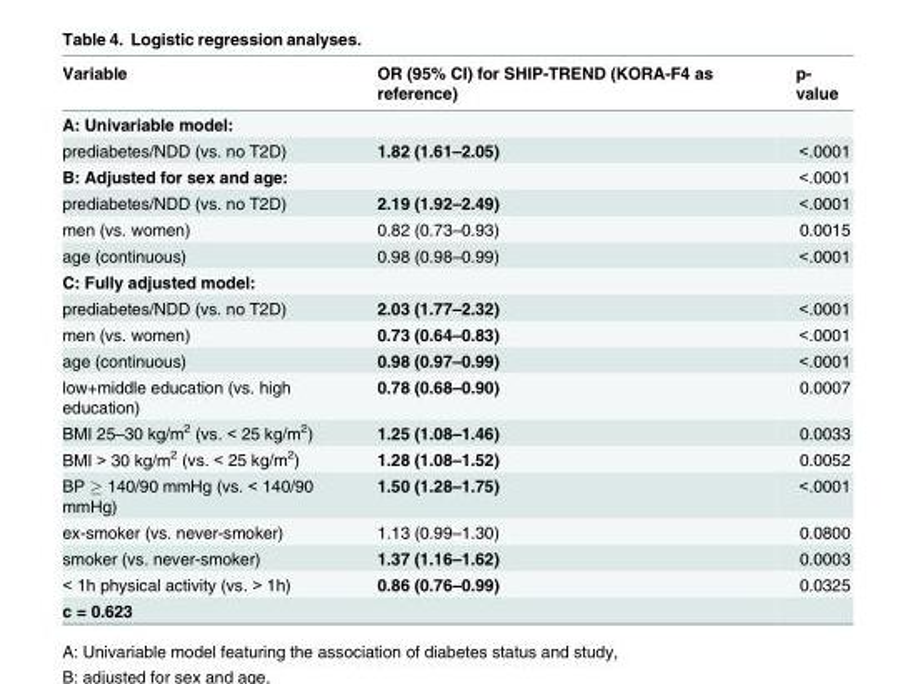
<table><thead><tr><td>Variable</td><td>OR (95% CI) for SHIP-TREND (KORA-F4 as reference)</td><td>p- value</td></tr></thead><tbody><tr><td colspan="3">A: Univariable model:</td></tr><tr><td>prediabetes/NDD (vs. no T2D)</td><td>1.82 (1.61–2.05)</td><td>&lt;.0001</td></tr><tr><td>B: Adjusted for sex and age:</td><td></td><td>&lt;.0001</td></tr><tr><td>prediabetes/NDD (vs. no T2D)</td><td>2.19 (1.92–2.49)</td><td>&lt;.0001</td></tr><tr><td>men (vs. women)</td><td>0.82 (0.73–0.93)</td><td>0.0015</td></tr><tr><td>age (continuous)</td><td>0.98 (0.98–0.99)</td><td>&lt;.0001</td></tr><tr><td colspan="3">C: Fully adjusted model:</td></tr><tr><td>prediabetes/NDD (vs. no T2D)</td><td>2.03 (1.77–2.32)</td><td>&lt;.0001</td></tr><tr><td>men (vs. women)</td><td>0.73 (0.64–0.83)</td><td>&lt;.0001</td></tr><tr><td>age (continuous)</td><td>0.98 (0.97–0.99)</td><td>&lt;.0001</td></tr><tr><td>low+middle education (vs. high education)</td><td>0.78 (0.68–0.90)</td><td>0.0007</td></tr><tr><td>BMI 25–30 kg/m<sup>2</sup> (vs. &lt; 25 kg/m<sup>2</sup>)</td><td>1.25 (1.08–1.46)</td><td>0.0033</td></tr><tr><td>BMI &gt; 30 kg/m<sup>2</sup> (vs. &lt; 25 kg/m<sup>2</sup>)</td><td>1.28 (1.08–1.52)</td><td>0.0052</td></tr><tr><td>BP ≥ 140/90 mmHg (vs. &lt; 140/90 mmHg)</td><td>1.50 (1.28–1.75)</td><td>&lt;.0001</td></tr><tr><td>ex-smoker (vs. never-smoker)</td><td>1.13 (0.99–1.30)</td><td>0.0800</td></tr><tr><td>smoker (vs. never-smoker)</td><td>1.37 (1.16–1.62)</td><td>0.0003</td></tr><tr><td>&lt; 1h physical activity (vs. &gt; 1h)</td><td>0.86 (0.76–0.99)</td><td>0.0325</td></tr><tr><td>c = 0.623</td><td></td><td></td></tr></tbody></table>